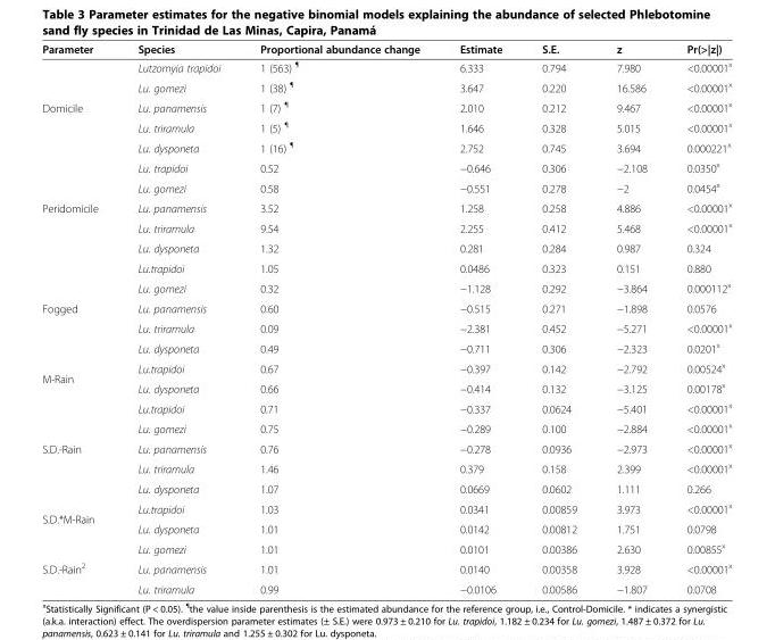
<table><thead><tr><td>Parameter</td><td>Species</td><td>Proportional abundance change</td><td>Estimate</td><td>S.E.</td><td>z</td><td>Pr(&gt;|z|)</td></tr></thead><tbody><tr><td rowspan="5">Domicile</td><td>Lutzomyia trapidoi</td><td>1 (563) <sup>¶</sup></td><td>6.333</td><td>0.794</td><td>7.980</td><td>&lt;0.00001<sup>x</sup></td></tr><tr><td>Lu. gomezi</td><td>1 (38) <sup>¶</sup></td><td>3.647</td><td>0.220</td><td>16.586</td><td>&lt;0.00001<sup>x</sup></td></tr><tr><td>Lu. panamensis</td><td>1 (7) <sup>¶</sup></td><td>2.010</td><td>0.212</td><td>9.467</td><td>&lt;0.00001<sup>x</sup></td></tr><tr><td>Lu. triramula</td><td>1 (5) <sup>¶</sup></td><td>1.646</td><td>0.328</td><td>5.015</td><td>&lt;0.00001<sup>x</sup></td></tr><tr><td>Lu. dysponeta</td><td>1 (16) <sup>¶</sup></td><td>2.752</td><td>0.745</td><td>3.694</td><td>0.000221<sup>x</sup></td></tr><tr><td rowspan="5">Peridomicile</td><td>Lu. trapidoi</td><td>0.52</td><td>−0.646</td><td>0.306</td><td>−2.108</td><td>0.0350<sup>x</sup></td></tr><tr><td>Lu. gomezi</td><td>0.58</td><td>−0.551</td><td>0.278</td><td>−2</td><td>0.0454<sup>x</sup></td></tr><tr><td>Lu. panamensis</td><td>3.52</td><td>1.258</td><td>0.258</td><td>4.886</td><td>&lt;0.00001<sup>x</sup></td></tr><tr><td>Lu. triramula</td><td>9.54</td><td>2.255</td><td>0.412</td><td>5.468</td><td>&lt;0.00001<sup>x</sup></td></tr><tr><td>Lu. dysponeta</td><td>1.32</td><td>0.281</td><td>0.284</td><td>0.987</td><td>0.324</td></tr><tr><td rowspan="5">Fogged</td><td>Lu.trapidoi</td><td>1.05</td><td>0.0486</td><td>0.323</td><td>0.151</td><td>0.880</td></tr><tr><td>Lu. gomezi</td><td>0.32</td><td>−1.128</td><td>0.292</td><td>−3.864</td><td>0.000112<sup>x</sup></td></tr><tr><td>Lu. panamensis</td><td>0.60</td><td>−0.515</td><td>0.271</td><td>−1.898</td><td>0.0576</td></tr><tr><td>Lu. triramula</td><td>0.09</td><td>−2.381</td><td>0.452</td><td>−5.271</td><td>&lt;0.00001<sup>x</sup></td></tr><tr><td>Lu. dysponeta</td><td>0.49</td><td>−0.711</td><td>0.306</td><td>−2.323</td><td>0.0201<sup>x</sup></td></tr><tr><td rowspan="2">M-Rain</td><td>Lu.trapidoi</td><td>0.67</td><td>−0.397</td><td>0.142</td><td>−2.792</td><td>0.00524<sup>x</sup></td></tr><tr><td>Lu. dysponeta</td><td>0.66</td><td>−0.414</td><td>0.132</td><td>−3.125</td><td>0.00178<sup>x</sup></td></tr><tr><td rowspan="5">S.D.-Rain</td><td>Lu.trapidoi</td><td>0.71</td><td>−0.337</td><td>0.0624</td><td>−5.401</td><td>&lt;0.00001<sup>x</sup></td></tr><tr><td>Lu. gomezi</td><td>0.75</td><td>−0.289</td><td>0.100</td><td>−2.884</td><td>&lt;0.00001<sup>x</sup></td></tr><tr><td>Lu. panamensis</td><td>0.76</td><td>−0.278</td><td>0.0936</td><td>−2.973</td><td>&lt;0.00001<sup>x</sup></td></tr><tr><td>Lu. triramula</td><td>1.46</td><td>0.379</td><td>0.158</td><td>2.399</td><td>&lt;0.00001<sup>x</sup></td></tr><tr><td>Lu. dysponeta</td><td>1.07</td><td>0.0669</td><td>0.0602</td><td>1.111</td><td>0.266</td></tr><tr><td rowspan="2">S.D.*M-Rain</td><td>Lu.trapidoi</td><td>1.03</td><td>0.0341</td><td>0.00859</td><td>3.973</td><td>&lt;0.00001<sup>x</sup></td></tr><tr><td>Lu. dysponeta</td><td>1.01</td><td>0.0142</td><td>0.00812</td><td>1.751</td><td>0.0798</td></tr><tr><td rowspan="3">S.D.-Rain<sup>2</sup></td><td>Lu. gomezi</td><td>1.01</td><td>0.0101</td><td>0.00386</td><td>2.630</td><td>0.00855<sup>x</sup></td></tr><tr><td>Lu. panamensis</td><td>1.01</td><td>0.0140</td><td>0.00358</td><td>3.928</td><td>&lt;0.00001<sup>x</sup></td></tr><tr><td>Lu. triramula</td><td>0.99</td><td>−0.0106</td><td>0.00586</td><td>−1.807</td><td>0.0708</td></tr></tbody></table>